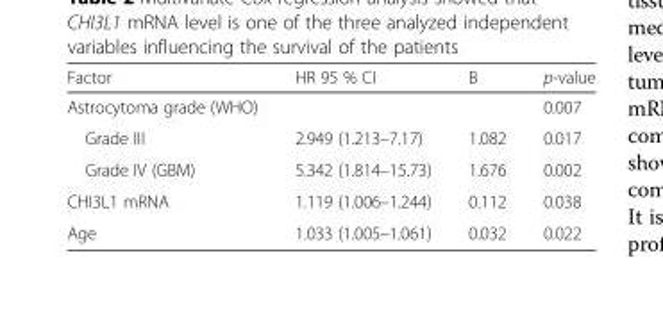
<table><thead><tr><td>Factor</td><td>HR 95 % CI</td><td>B</td><td>p-value</td></tr></thead><tbody><tr><td>Astrocytoma grade (WHO)</td><td></td><td></td><td>0.007</td></tr><tr><td>Grade III</td><td>2.949 (1.213–7.17)</td><td>1.082</td><td>0.017</td></tr><tr><td>Grade IV (GBM)</td><td>5.342 (1.814–15.73)</td><td>1.676</td><td>0.002</td></tr><tr><td>CHI3L1 mRNA</td><td>1.119 (1.006–1.244)</td><td>0.112</td><td>0.038</td></tr><tr><td>Age</td><td>1.033 (1.005–1.061)</td><td>0.032</td><td>0.022</td></tr></tbody></table>